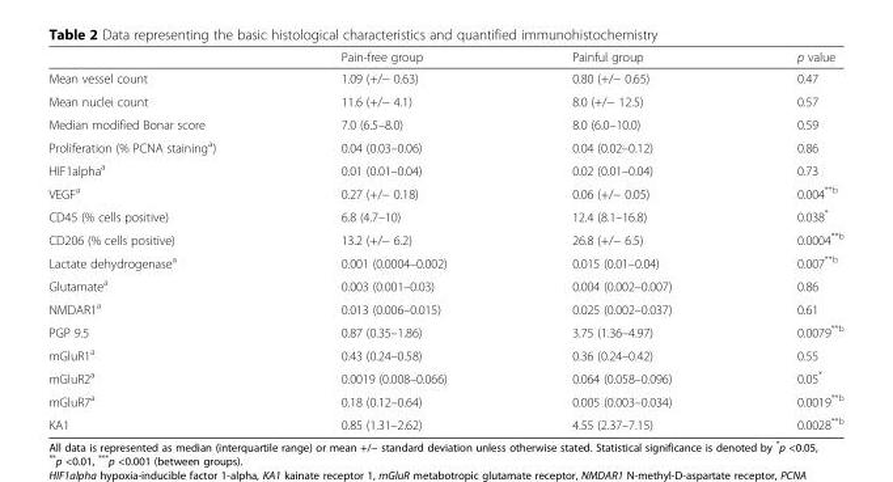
<table><thead><tr><td></td><td>Pain-free group</td><td>Painful group</td><td>p value</td></tr></thead><tbody><tr><td>Mean vessel count</td><td>1.09 (+/− 0.63)</td><td>0.80 (+/− 0.65)</td><td>0.47</td></tr><tr><td>Mean nuclei count</td><td>11.6 (+/− 4.1)</td><td>8.0 (+/− 12.5)</td><td>0.57</td></tr><tr><td>Median modified Bonar score</td><td>7.0 (6.5–8.0)</td><td>8.0 (6.0–10.0)</td><td>0.59</td></tr><tr><td>Proliferation (% PCNA staining<sup>a</sup>)</td><td>0.04 (0.03–0.06)</td><td>0.04 (0.02–0.12)</td><td>0.86</td></tr><tr><td>HIF1alpha<sup>a</sup></td><td>0.01 (0.01–0.04)</td><td>0.02 (0.01–0.04)</td><td>0.73</td></tr><tr><td>VEGF<sup>a</sup></td><td>0.27 (+/− 0.18)</td><td>0.06 (+/− 0.05)</td><td>0.004<sup>**b</sup></td></tr><tr><td>CD45 (% cells positive)</td><td>6.8 (4.7–10)</td><td>12.4 (8.1–16.8)</td><td>0.038*</td></tr><tr><td>CD206 (% cells positive)</td><td>13.2 (+/− 6.2)</td><td>26.8 (+/− 6.5)</td><td>0.0004<sup>**b</sup></td></tr><tr><td>Lactate dehydrogenase<sup>a</sup></td><td>0.001 (0.0004–0.002)</td><td>0.015 (0.01–0.04)</td><td>0.007<sup>**b</sup></td></tr><tr><td>Glutamate<sup>a</sup></td><td>0.003 (0.001–0.03)</td><td>0.004 (0.002–0.007)</td><td>0.86</td></tr><tr><td>NMDAR1<sup>a</sup></td><td>0.013 (0.006–0.015)</td><td>0.025 (0.002–0.037)</td><td>0.61</td></tr><tr><td>PGP 9.5</td><td>0.87 (0.35–1.86)</td><td>3.75 (1.36–4.97)</td><td>0.0079<sup>**b</sup></td></tr><tr><td>mGluR1<sup>a</sup></td><td>0.43 (0.24–0.58)</td><td>0.36 (0.24–0.42)</td><td>0.55</td></tr><tr><td>mGluR2<sup>a</sup></td><td>0.0019 (0.008–0.066)</td><td>0.064 (0.058–0.096)</td><td>0.05*</td></tr><tr><td>mGluR7<sup>a</sup></td><td>0.18 (0.12–0.64)</td><td>0.005 (0.003–0.034)</td><td>0.0019<sup>**b</sup></td></tr><tr><td>KA1</td><td>0.85 (1.31–2.62)</td><td>4.55 (2.37–7.15)</td><td>0.0028<sup>**b</sup></td></tr></tbody></table>